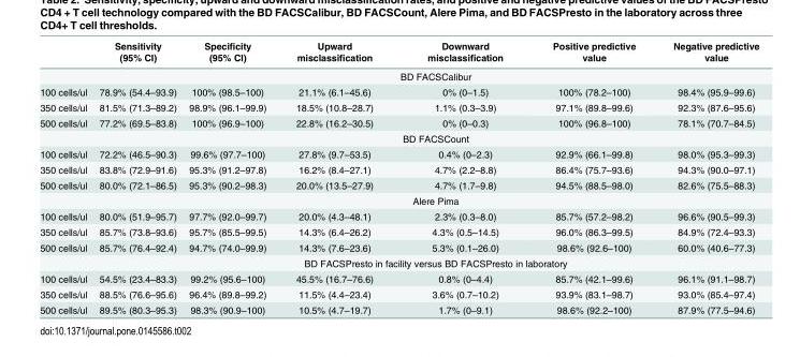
<table><thead><tr><td></td><td>Sensitivity (95% CI)</td><td>Specificity (95% CI)</td><td>Upward misclassification</td><td>Downward misclassification</td><td>Positive predictive value</td><td>Negative predictive value</td></tr></thead><tbody><tr><td></td><td colspan="6">BD FACSCalibur</td></tr><tr><td>100 cells/ul</td><td>78.9% (54.4–93.9)</td><td>100% (98.5–100)</td><td>21.1% (6.1–45.6)</td><td>0% (0–1.5)</td><td>100% (78.2–100)</td><td>98.4% (95.9–99.6)</td></tr><tr><td>350 cells/ul</td><td>81.5% (71.3–89.2)</td><td>98.9% (96.1–99.9)</td><td>18.5% (10.8–28.7)</td><td>1.1% (0.3–3.9)</td><td>97.1% (89.8–99.6)</td><td>92.3% (87.6–95.6)</td></tr><tr><td rowspan="2">500 cells/ul</td><td>77.2% (69.5–83.8)</td><td>100% (96.9–100)</td><td>22.8% (16.2–30.5)</td><td>0% (0–0.3)</td><td>100% (96.8–100)</td><td>78.1% (70.7–84.5)</td></tr><tr><td colspan="6">BD FACSCount</td></tr><tr><td>100 cells/ul</td><td>72.2% (46.5–90.3)</td><td>99.6% (97.7–100)</td><td>27.8% (9.7–53.5)</td><td>0.4% (0–2.3)</td><td>92.9% (66.1–99.8)</td><td>98.0% (95.3–99.3)</td></tr><tr><td>350 cells/ul</td><td>83.8% (72.9–91.6)</td><td>95.3% (91.2–97.8)</td><td>16.2% (8.4–27.1)</td><td>4.7% (2.2–8.8)</td><td>86.4% (75.7–93.6)</td><td>94.3% (90.0–97.1)</td></tr><tr><td rowspan="2">500 cells/ul</td><td>80.0% (72.1–86.5)</td><td>95.3% (90.2–98.3)</td><td>20.0% (13.5–27.9)</td><td>4.7% (1.7–9.8)</td><td>94.5% (88.5–98.0)</td><td>82.6% (75.5–88.3)</td></tr><tr><td colspan="6">Alere Pima</td></tr><tr><td>100 cells/ul</td><td>80.0% (51.9–95.7)</td><td>97.7% (92.0–99.7)</td><td>20.0% (4.3–48.1)</td><td>2.3% (0.3–8.0)</td><td>85.7% (57.2–98.2)</td><td>96.6% (90.5–99.3)</td></tr><tr><td>350 cells/ul</td><td>85.7% (73.8–93.6)</td><td>95.7% (85.5–99.5)</td><td>14.3% (6.4–26.2)</td><td>4.3% (0.5–14.5)</td><td>96.0% (86.3–99.5)</td><td>84.9% (72.4–93.3)</td></tr><tr><td rowspan="2">500 cells/ul</td><td>85.7% (76.4–92.4)</td><td>94.7% (74.0–99.9)</td><td>14.3% (7.6–23.6)</td><td>5.3% (0.1–26.0)</td><td>98.6% (92.6–100)</td><td>60.0% (40.6–77.3)</td></tr><tr><td colspan="6">BD FACSPresto in facility versus BD FACSPresto in laboratory</td></tr><tr><td>100 cells/ul</td><td>54.5% (23.4–83.3)</td><td>99.2% (95.6–100)</td><td>45.5% (16.7–76.6)</td><td>0.8% (0–4.4)</td><td>85.7% (42.1–99.6)</td><td>96.1% (91.1–98.7)</td></tr><tr><td>350 cells/ul</td><td>88.5% (76.6–95.6)</td><td>96.4% (89.8–99.2)</td><td>11.5% (4.4–23.4)</td><td>3.6% (0.7–10.2)</td><td>93.9% (83.1–98.7)</td><td>93.0% (85.4–97.4)</td></tr><tr><td>500 cells/ul</td><td>89.5% (80.3–95.3)</td><td>98.3% (90.9–100)</td><td>10.5% (4.7–19.7)</td><td>1.7% (0–9.1)</td><td>98.6% (92.2–100)</td><td>87.9% (77.5–94.6)</td></tr></tbody></table>